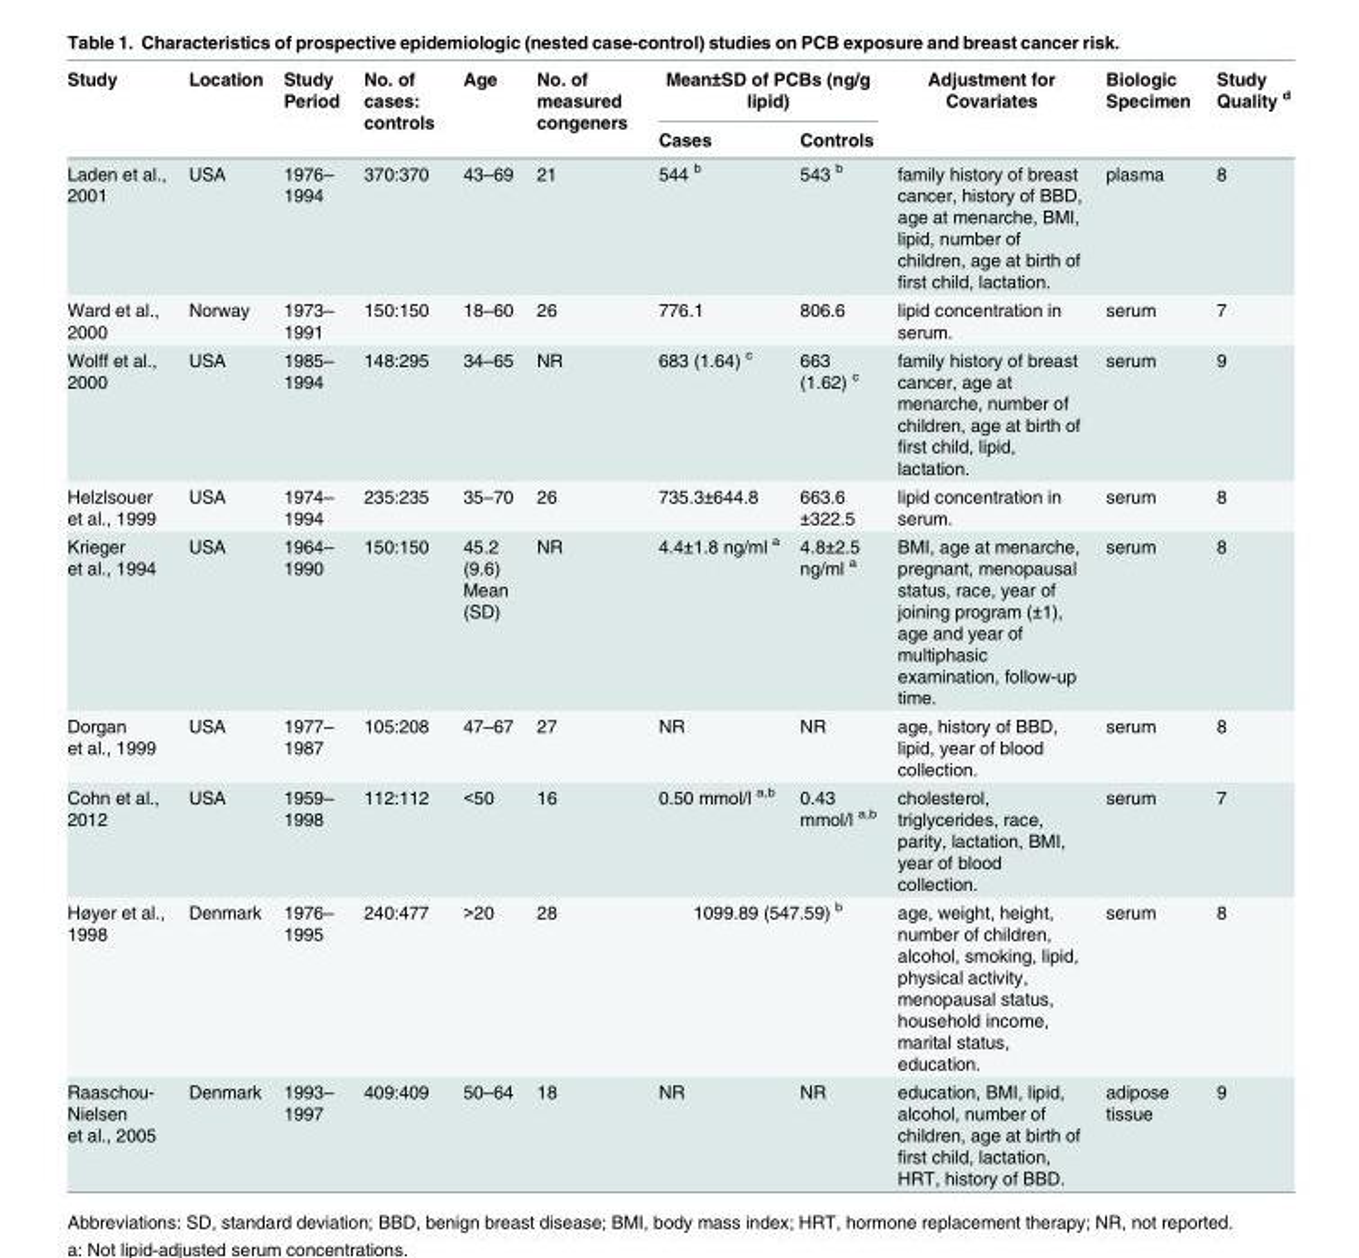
<table><thead><tr><td rowspan="2">Study</td><td rowspan="2">Location</td><td rowspan="2">Study Period</td><td rowspan="2">No. of cases: controls</td><td rowspan="2">Age</td><td rowspan="2">No. of measured congeners</td><td colspan="2">Mean±SD of PCBs (ng/g lipid)</td><td rowspan="2">Adjustment for Covariates</td><td rowspan="2">Biologic Specimen</td><td rowspan="2">Study Quality <sup>d</sup></td></tr><tr><td>Cases</td><td>Controls</td></tr></thead><tbody><tr><td>Laden et al., 2001</td><td>USA</td><td>1976– 1994</td><td>370:370</td><td>43–69</td><td>21</td><td>544 <sup>b</sup></td><td>543 <sup>b</sup></td><td>family history of breast cancer, history of BBD, age at menarche, BMI, lipid, number of children, age at birth of first child, lactation.</td><td>plasma</td><td>8</td></tr><tr><td>Ward et al., 2000</td><td>Norway</td><td>1973– 1991</td><td>150:150</td><td>18–60</td><td>26</td><td>776.1</td><td>806.6</td><td>lipid concentration in serum.</td><td>serum</td><td>7</td></tr><tr><td>Wolff et al., 2000</td><td>USA</td><td>1985– 1994</td><td>148:295</td><td>34–65</td><td>NR</td><td>683 (1.64) <sup>c</sup></td><td>663 (1.62) <sup>c</sup></td><td>family history of breast cancer, age at menarche, number of children, age at birth of first child, lipid, lactation.</td><td>serum</td><td>9</td></tr><tr><td>Helzlsouer et al., 1999</td><td>USA</td><td>1974– 1994</td><td>235:235</td><td>35–70</td><td>26</td><td>735.3±644.8</td><td>663.6 ±322.5</td><td>lipid concentration in serum.</td><td>serum</td><td>8</td></tr><tr><td>Krieger et al., 1994</td><td>USA</td><td>1964– 1990</td><td>150:150</td><td>45.2 (9.6) Mean (SD)</td><td>NR</td><td>4.4±1.8 ng/ml <sup>a</sup></td><td>4.8±2.5 ng/ml <sup>a</sup></td><td>BMI, age at menarche, pregnant, menopausal status, race, year of joining program (±1), age and year of multiphasic examination, follow-up time.</td><td>serum</td><td>8</td></tr><tr><td>Dorgan et al., 1999</td><td>USA</td><td>1977– 1987</td><td>105:208</td><td>47–67</td><td>27</td><td>NR</td><td>NR</td><td>age, history of BBD, lipid, year of blood collection.</td><td>serum</td><td>8</td></tr><tr><td>Cohn et al., 2012</td><td>USA</td><td>1959– 1998</td><td>112:112</td><td>&lt;50</td><td>16</td><td>0.50 mmol/l <sup>a,b</sup></td><td>0.43 mmol/l <sup>a,b</sup></td><td>cholesterol, triglycerides, race, parity, lactation, BMI, year of blood collection.</td><td>serum</td><td>7</td></tr><tr><td>Høyer et al., 1998</td><td>Denmark</td><td>1976– 1995</td><td>240:477</td><td>&gt;20</td><td>28</td><td colspan="2">1099.89 (547.59) <sup>b</sup></td><td>age, weight, height, number of children, alcohol, smoking, lipid, physical activity, menopausal status, household income, marital status, education.</td><td>serum</td><td>8</td></tr><tr><td>Raaschou- Nielsen et al., 2005</td><td>Denmark</td><td>1993– 1997</td><td>409:409</td><td>50–64</td><td>18</td><td>NR</td><td>NR</td><td>education, BMI, lipid, alcohol, number of children, age at birth of first child, lactation, HRT, history of BBD.</td><td>adipose tissue</td><td>9</td></tr></tbody></table>